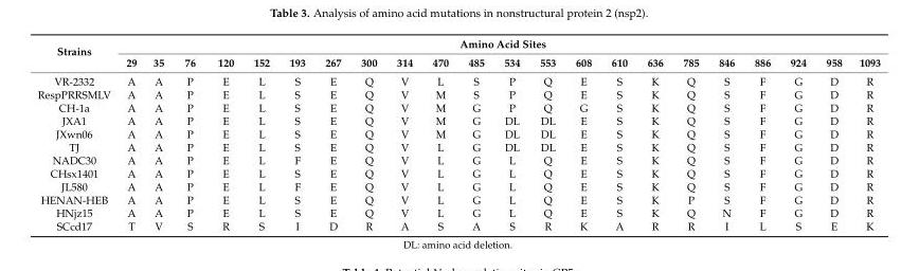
<table><thead><tr><td rowspan="2">Strains</td><td colspan="22">Amino Acid Sites</td></tr><tr><td>29</td><td>35</td><td>76</td><td>120</td><td>152</td><td>193</td><td>267</td><td>300</td><td>314</td><td>470</td><td>485</td><td>534</td><td>553</td><td>608</td><td>610</td><td>636</td><td>785</td><td>846</td><td>886</td><td>924</td><td>958</td><td>1093</td></tr></thead><tbody><tr><td>VR-2332</td><td>A</td><td>A</td><td>P</td><td>E</td><td>L</td><td>S</td><td>E</td><td>Q</td><td>V</td><td>L</td><td>S</td><td>P</td><td>Q</td><td>E</td><td>S</td><td>K</td><td>Q</td><td>S</td><td>F</td><td>G</td><td>D</td><td>R</td></tr><tr><td>RespPRRSMLV</td><td>A</td><td>A</td><td>P</td><td>E</td><td>L</td><td>S</td><td>E</td><td>Q</td><td>V</td><td>M</td><td>S</td><td>P</td><td>Q</td><td>E</td><td>S</td><td>K</td><td>Q</td><td>S</td><td>F</td><td>G</td><td>D</td><td>R</td></tr><tr><td>CH-1a</td><td>A</td><td>A</td><td>P</td><td>E</td><td>L</td><td>S</td><td>E</td><td>Q</td><td>V</td><td>M</td><td>G</td><td>P</td><td>Q</td><td>G</td><td>S</td><td>K</td><td>Q</td><td>S</td><td>F</td><td>G</td><td>D</td><td>R</td></tr><tr><td>JXA1</td><td>A</td><td>A</td><td>P</td><td>E</td><td>L</td><td>S</td><td>E</td><td>Q</td><td>V</td><td>M</td><td>G</td><td>DL</td><td>DL</td><td>E</td><td>S</td><td>K</td><td>Q</td><td>S</td><td>F</td><td>G</td><td>D</td><td>R</td></tr><tr><td>JXwn06</td><td>A</td><td>A</td><td>P</td><td>E</td><td>L</td><td>S</td><td>E</td><td>Q</td><td>V</td><td>M</td><td>G</td><td>DL</td><td>DL</td><td>E</td><td>S</td><td>K</td><td>Q</td><td>S</td><td>F</td><td>G</td><td>D</td><td>R</td></tr><tr><td>TJ</td><td>A</td><td>A</td><td>P</td><td>E</td><td>L</td><td>S</td><td>E</td><td>Q</td><td>V</td><td>L</td><td>G</td><td>DL</td><td>DL</td><td>E</td><td>S</td><td>K</td><td>Q</td><td>S</td><td>F</td><td>G</td><td>D</td><td>R</td></tr><tr><td>NADC30</td><td>A</td><td>A</td><td>P</td><td>E</td><td>L</td><td>F</td><td>E</td><td>Q</td><td>V</td><td>L</td><td>G</td><td>L</td><td>Q</td><td>E</td><td>S</td><td>K</td><td>Q</td><td>S</td><td>F</td><td>G</td><td>D</td><td>R</td></tr><tr><td>CHsx1401</td><td>A</td><td>A</td><td>P</td><td>E</td><td>L</td><td>S</td><td>E</td><td>Q</td><td>V</td><td>L</td><td>G</td><td>L</td><td>Q</td><td>E</td><td>S</td><td>K</td><td>Q</td><td>S</td><td>F</td><td>G</td><td>D</td><td>R</td></tr><tr><td>JL580</td><td>A</td><td>A</td><td>P</td><td>E</td><td>L</td><td>F</td><td>E</td><td>Q</td><td>V</td><td>L</td><td>G</td><td>L</td><td>Q</td><td>E</td><td>S</td><td>K</td><td>Q</td><td>S</td><td>F</td><td>G</td><td>D</td><td>R</td></tr><tr><td>HENAN-HEB</td><td>A</td><td>A</td><td>P</td><td>E</td><td>L</td><td>S</td><td>E</td><td>Q</td><td>V</td><td>L</td><td>G</td><td>L</td><td>Q</td><td>E</td><td>S</td><td>K</td><td>P</td><td>S</td><td>F</td><td>G</td><td>D</td><td>R</td></tr><tr><td>HNjz15</td><td>A</td><td>A</td><td>P</td><td>E</td><td>L</td><td>S</td><td>E</td><td>Q</td><td>V</td><td>L</td><td>G</td><td>L</td><td>Q</td><td>E</td><td>S</td><td>K</td><td>Q</td><td>N</td><td>F</td><td>G</td><td>D</td><td>R</td></tr><tr><td>SCcd17</td><td>T</td><td>V</td><td>S</td><td>R</td><td>S</td><td>I</td><td>D</td><td>R</td><td>A</td><td>S</td><td>A</td><td>S</td><td>R</td><td>K</td><td>A</td><td>R</td><td>R</td><td>I</td><td>L</td><td>S</td><td>E</td><td>K</td></tr></tbody></table>